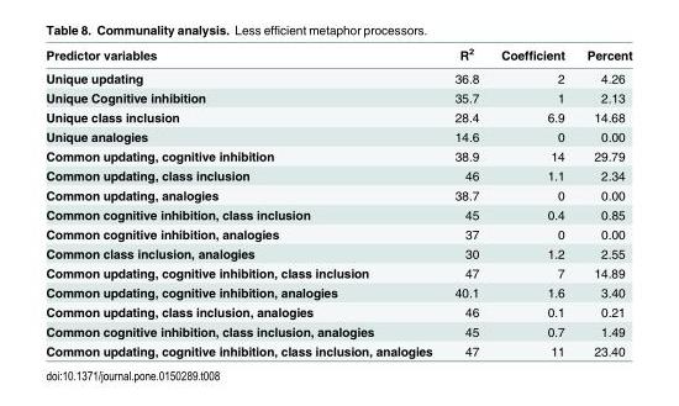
<table><thead><tr><td>Predictor variables</td><td>R<sup>2</sup></td><td>Coefficient</td><td>Percent</td></tr></thead><tbody><tr><td>Unique updating</td><td>36.8</td><td>2</td><td>4.26</td></tr><tr><td>Unique Cognitive inhibition</td><td>35.7</td><td>1</td><td>2.13</td></tr><tr><td>Unique class inclusion</td><td>28.4</td><td>6.9</td><td>14.68</td></tr><tr><td>Unique analogies</td><td>14.6</td><td>0</td><td>0.00</td></tr><tr><td>Common updating, cognitive inhibition</td><td>38.9</td><td>14</td><td>29.79</td></tr><tr><td>Common updating, class inclusion</td><td>46</td><td>1.1</td><td>2.34</td></tr><tr><td>Common updating, analogies</td><td>38.7</td><td>0</td><td>0.00</td></tr><tr><td>Common cognitive inhibition, class inclusion</td><td>45</td><td>0.4</td><td>0.85</td></tr><tr><td>Common cognitive inhibition, analogies</td><td>37</td><td>0</td><td>0.00</td></tr><tr><td>Common class inclusion, analogies</td><td>30</td><td>1.2</td><td>2.55</td></tr><tr><td>Common updating, cognitive inhibition, class inclusion</td><td>47</td><td>7</td><td>14.89</td></tr><tr><td>Common updating, cognitive inhibition, analogies</td><td>40.1</td><td>1.6</td><td>3.40</td></tr><tr><td>Common updating, class inclusion, analogies</td><td>46</td><td>0.1</td><td>0.21</td></tr><tr><td>Common cognitive inhibition, class inclusion, analogies</td><td>45</td><td>0.7</td><td>1.49</td></tr><tr><td>Common updating, cognitive inhibition, class inclusion, analogies</td><td>47</td><td>11</td><td>23.40</td></tr></tbody></table>